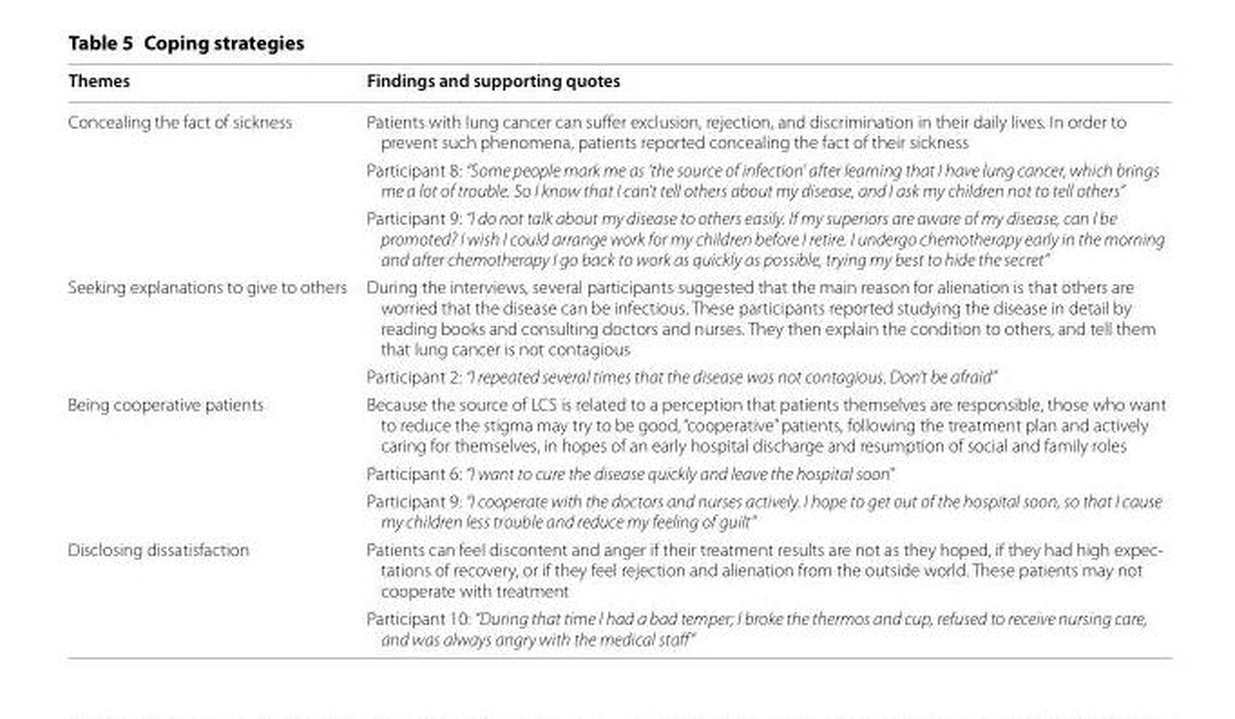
<table><thead><tr><td>Themes</td><td>Findings and supporting quotes</td></tr></thead><tbody><tr><td rowspan="3">Concealing the fact of sickness</td><td>Patients with lung cancer can suffer exclusion, rejection, and discrimination in their daily lives. In order to prevent such phenomena, patients reported concealing the fact of their sickness</td></tr><tr><td>Participant 8: “Some people mark me as ‘the source of infection’ after learning that I have lung cancer, which brings me a lot of trouble. So I know that I can’t tell others about my disease, and I ask my children not to tell others”</td></tr><tr><td>Participant 9: “I do not talk about my disease to others easily. If my superiors are aware of my disease, can I be promoted? I wish I could arrange work for my children before I retire. I undergo chemotherapy early in the morning and after chemotherapy I go back to work as quickly as possible, trying my best to hide the secret”</td></tr><tr><td rowspan="2">Seeking explanations to give to others</td><td>During the interviews, several participants suggested that the main reason for alienation is that others are worried that the disease can be infectious. These participants reported studying the disease in detail by reading books and consulting doctors and nurses. They then explain the condition to others, and tell them that lung cancer is not contagious</td></tr><tr><td>Participant 2: “I repeated several times that the disease was not contagious. Don’t be afraid”</td></tr><tr><td rowspan="3">Being cooperative patients</td><td>Because the source of LCS is related to a perception that patients themselves are responsible, those who want to reduce the stigma may try to be good, “cooperative” patients, following the treatment plan and actively caring for themselves, in hopes of an early hospital discharge and resumption of social and family roles</td></tr><tr><td>Participant 6: “I want to cure the disease quickly and leave the hospital soon”</td></tr><tr><td>Participant 9: “I cooperate with the doctors and nurses actively. I hope to get out of the hospital soon, so that I cause my children less trouble and reduce my feeling of guilt”</td></tr><tr><td rowspan="2">Disclosing dissatisfaction</td><td>Patients can feel discontent and anger if their treatment results are not as they hoped, if they had high expec- tations of recovery, or if they feel rejection and alienation from the outside world. These patients may not cooperate with treatment</td></tr><tr><td>Participant 10: “During that time I had a bad temper; I broke the thermos and cup, refused to receive nursing care, and was always angry with the medical staff”</td></tr></tbody></table>